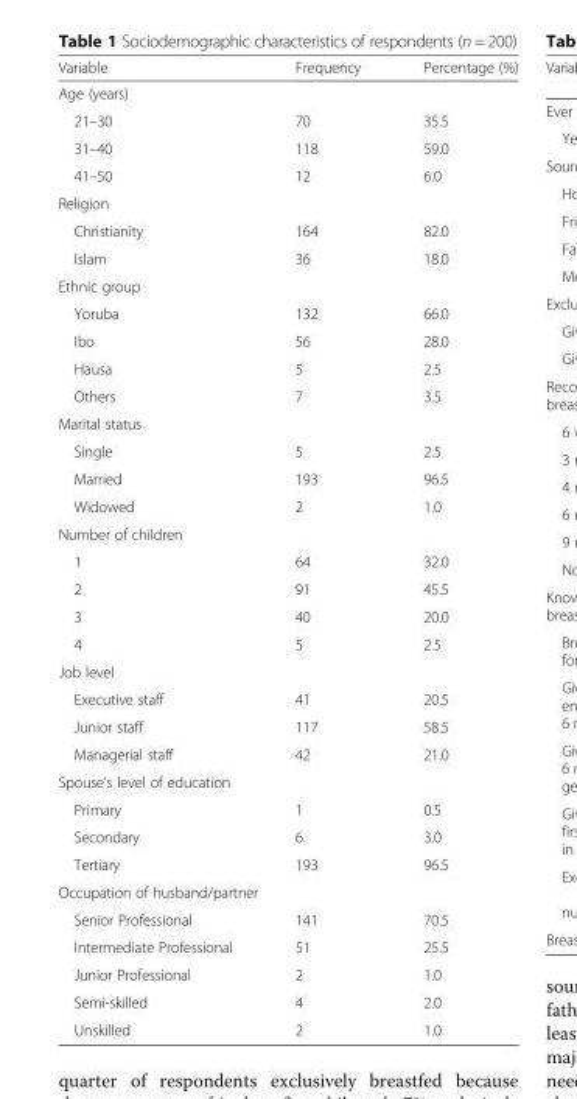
<table><thead><tr><td>Variable</td><td>Frequency</td><td>Percentage (%)</td></tr></thead><tbody><tr><td colspan="3">Age (years)</td></tr><tr><td>21–30</td><td>70</td><td>35.5</td></tr><tr><td>31–40</td><td>118</td><td>59.0</td></tr><tr><td>41–50</td><td>12</td><td>6.0</td></tr><tr><td colspan="3">Religion</td></tr><tr><td>Christianity</td><td>164</td><td>82.0</td></tr><tr><td>Islam</td><td>36</td><td>18.0</td></tr><tr><td colspan="3">Ethnic group</td></tr><tr><td>Yoruba</td><td>132</td><td>66.0</td></tr><tr><td>Ibo</td><td>56</td><td>28.0</td></tr><tr><td>Hausa</td><td>5</td><td>2.5</td></tr><tr><td>Others</td><td>7</td><td>3.5</td></tr><tr><td colspan="3">Marital status</td></tr><tr><td>Single</td><td>5</td><td>2.5</td></tr><tr><td>Married</td><td>193</td><td>96.5</td></tr><tr><td>Widowed</td><td>2</td><td>1.0</td></tr><tr><td colspan="3">Number of children</td></tr><tr><td>1</td><td>64</td><td>32.0</td></tr><tr><td>2</td><td>91</td><td>45.5</td></tr><tr><td>3</td><td>40</td><td>20.0</td></tr><tr><td>4</td><td>5</td><td>2.5</td></tr><tr><td colspan="3">Job level</td></tr><tr><td>Executive staff</td><td>41</td><td>20.5</td></tr><tr><td>Junior staff</td><td>117</td><td>58.5</td></tr><tr><td>Managerial staff</td><td>42</td><td>21.0</td></tr><tr><td colspan="3">Spouse’s level of education</td></tr><tr><td>Primary</td><td>1</td><td>0.5</td></tr><tr><td>Secondary</td><td>6</td><td>3.0</td></tr><tr><td>Tertiary</td><td>193</td><td>96.5</td></tr><tr><td colspan="3">Occupation of husband/partner</td></tr><tr><td>Senior Professional</td><td>141</td><td>70.5</td></tr><tr><td>Intermediate Professional</td><td>51</td><td>25.5</td></tr><tr><td>Junior Professional</td><td>2</td><td>1.0</td></tr><tr><td>Semi-skilled</td><td>4</td><td>2.0</td></tr><tr><td>Unskilled</td><td>2</td><td>1.0</td></tr></tbody></table>